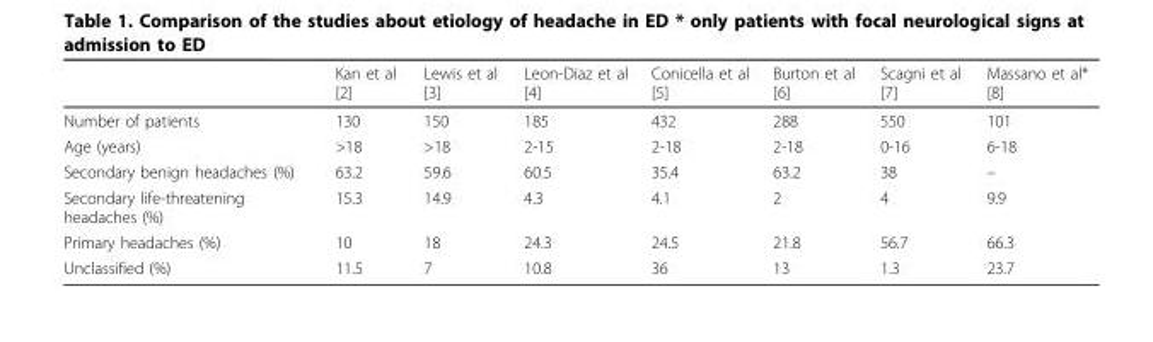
<table><thead><tr><td></td><td>Kan et al [2]</td><td>Lewis et al [3]</td><td>Leon-Diaz et al [4]</td><td>Conicella et al [5]</td><td>Burton et al [6]</td><td>Scagni et al [7]</td><td>Massano et al* [8]</td></tr></thead><tbody><tr><td>Number of patients</td><td>130</td><td>150</td><td>185</td><td>432</td><td>288</td><td>550</td><td>101</td></tr><tr><td>Age (years)</td><td>&gt;18</td><td>&gt;18</td><td>2-15</td><td>2-18</td><td>2-18</td><td>0-16</td><td>6-18</td></tr><tr><td>Secondary benign headaches (%)</td><td>63.2</td><td>59.6</td><td>60.5</td><td>35.4</td><td>63.2</td><td>38</td><td>–</td></tr><tr><td>Secondary life-threatening headaches (%)</td><td>15.3</td><td>14.9</td><td>4.3</td><td>4.1</td><td>2</td><td>4</td><td>9.9</td></tr><tr><td>Primary headaches (%)</td><td>10</td><td>18</td><td>24.3</td><td>24.5</td><td>21.8</td><td>56.7</td><td>66.3</td></tr><tr><td>Unclassified (%)</td><td>11.5</td><td>7</td><td>10.8</td><td>36</td><td>13</td><td>1.3</td><td>23.7</td></tr></tbody></table>